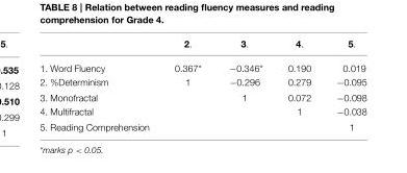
<table><thead><tr><td></td><td>2.</td><td>3.</td><td>4.</td><td>5.</td></tr></thead><tbody><tr><td>1. Word Fluency</td><td>0.367*</td><td>−0.346*</td><td>0.190</td><td>0.019</td></tr><tr><td>2. %Determinism</td><td>1</td><td>−0.296</td><td>0.279</td><td>−0.095</td></tr><tr><td>3. Monofractal</td><td></td><td>1</td><td>0.072</td><td>−0.098</td></tr><tr><td>4. Multifractal</td><td></td><td></td><td>1</td><td>−0.038</td></tr><tr><td>5. Reading Comprehension</td><td></td><td></td><td></td><td>1</td></tr></tbody></table>